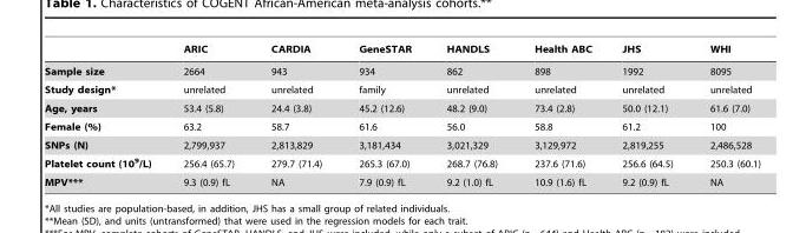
<table><thead><tr><td></td><td>ARIC</td><td>CARDIA</td><td>GeneSTAR</td><td>HANDLS</td><td>Health ABC</td><td>JHS</td><td>WHI</td></tr></thead><tbody><tr><td>Sample size</td><td>2664</td><td>943</td><td>934</td><td>862</td><td>898</td><td>1992</td><td>8095</td></tr><tr><td>Study design*</td><td>unrelated</td><td>unrelated</td><td>family</td><td>unrelated</td><td>unrelated</td><td>unrelated</td><td>unrelated</td></tr><tr><td>Age, years</td><td>53.4 (5.8)</td><td>24.4 (3.8)</td><td>45.2 (12.6)</td><td>48.2 (9.0)</td><td>73.4 (2.8)</td><td>50.0 (12.1)</td><td>61.6 (7.0)</td></tr><tr><td>Female (%)</td><td>63.2</td><td>58.7</td><td>61.6</td><td>56.0</td><td>58.8</td><td>61.2</td><td>100</td></tr><tr><td>SNPs (N)</td><td>2,799,937</td><td>2,813,829</td><td>3,181,434</td><td>3,021,329</td><td>3,129,972</td><td>2,819,255</td><td>2,486,528</td></tr><tr><td>Platelet count (10<sup>9</sup>/L)</td><td>256.4 (65.7)</td><td>279.7 (71.4)</td><td>265.3 (67.0)</td><td>268.7 (76.8)</td><td>237.6 (71.6)</td><td>256.6 (64.5)</td><td>250.3 (60.1)</td></tr><tr><td>MPV***</td><td>9.3 (0.9) fL</td><td>NA</td><td>7.9 (0.9) fL</td><td>9.2 (1.0) fL</td><td>10.9 (1.6) fL</td><td>9.2 (0.9) fL</td><td>NA</td></tr></tbody></table>